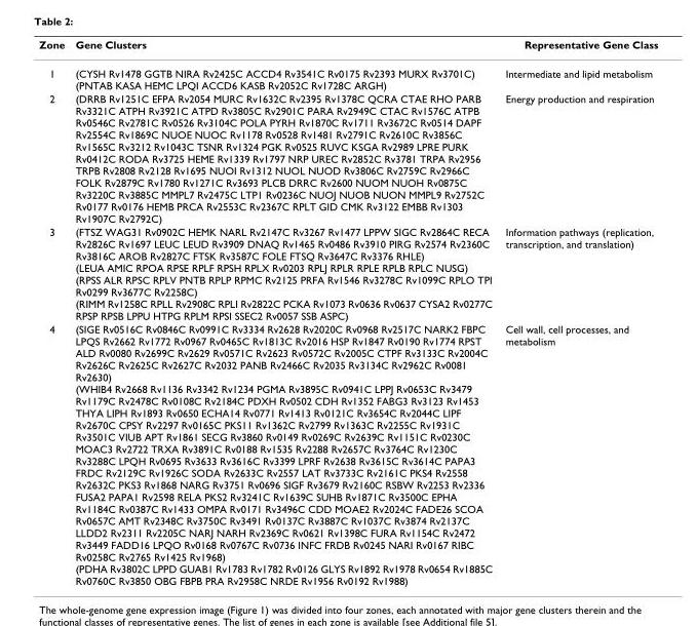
<table><thead><tr><td>Zone</td><td>Gene Clusters</td><td>Representative Gene Class</td></tr></thead><tbody><tr><td>1</td><td>(CYSH Rv1478 GGTB NIRA Rv2425C ACCD4 Rv3541C Rv0175 Rv2393 MURX Rv3701C) (PNTAB KASA HEMC LPQI ACCD6 KASB Rv2052C Rv1728C ARGH)</td><td>Intermediate and lipid metabolism</td></tr><tr><td>2</td><td>(DRRB Rv1251C EFPA Rv2054 MURC Rv1632C Rv2395 Rv1378C QCRA CTAE RHO PARB Rv3321C ATPH Rv3921C ATPD Rv3805C Rv2901C PARA Rv2949C CTAC Rv1576C ATPB Rv0546C Rv2781C Rv0526 Rv3104C POLA PYRH Rv1870C Rv1711 Rv3672C Rv0514 DAPF Rv2554C Rv1869C NUOE NUOC Rv1178 Rv0528 Rv1481 Rv2791C Rv2610C Rv3856C Rv1565C Rv3212 Rv1043C TSNR Rv1324 PGK Rv0525 RUVC KSGA Rv2989 LPRE PURK Rv0412C RODA Rv3725 HEME Rv1339 Rv1797 NRP UREC Rv2852C Rv3781 TRPA Rv2956 TRPB Rv2808 Rv2128 Rv1695 NUOI Rv1312 NUOL NUOD Rv3806C Rv2759C Rv2966C FOLK Rv2879C Rv1780 Rv1271C Rv3693 PLCB DRRC Rv2600 NUOM NUOH Rv0875C Rv3220C Rv3885C MMPL7 Rv2475C LTP1 Rv0236C NUOJ NUOB NUON MMPL9 Rv2752C Rv0177 Rv0176 HEMB PRCA Rv2553C Rv2367C RPLT GID CMK Rv3122 EMBB Rv1303 Rv1907C Rv2792C)</td><td>Energy production and respiration</td></tr><tr><td>3</td><td>(FTSZ WAG31 Rv0902C HEMK NARL Rv2147C Rv3267 Rv1477 LPPW SIGC Rv2864C RECA Rv2826C Rv1697 LEUC LEUD Rv3909 DNAQ Rv1465 Rv0486 Rv3910 PIRG Rv2574 Rv2360C Rv3816C AROB Rv2827C FTSK Rv3587C FOLE FTSQ Rv3647C Rv3376 RHLE) (LEUA AMIC RPOA RPSE RPLF RPSH RPLX Rv0203 RPLJ RPLR RPLE RPLB RPLC NUSG) (RPSS ALR RPSC RPLV PNTB RPLP RPMC Rv2125 PRFA Rv1546 Rv3278C Rv1099C RPLO TPI Rv0299 Rv3677C Rv2258C) (RIMM Rv1258C RPLL Rv2908C RPLI Rv2822C PCKA Rv1073 Rv0636 Rv0637 CYSA2 Rv0277C RPSP RPSB LPPU HTPG RPLM RPSI SSEC2 Rv0057 SSB ASPC)</td><td>Information pathways (replication, transcription, and translation)</td></tr><tr><td>4</td><td>(SIGE Rv0516C Rv0846C Rv0991C Rv3334 Rv2628 Rv2020C Rv0968 Rv2517C NARK2 FBPC LPQS Rv2662 Rv1772 Rv0967 Rv0465C Rv1813C Rv2016 HSP Rv1847 Rv0190 Rv1774 RPST ALD Rv0080 Rv2699C Rv2629 Rv0571C Rv2623 Rv0572C Rv2005C CTPF Rv3133C Rv2004C Rv2626C Rv2625C Rv2627C Rv2032 PANB Rv2466C Rv2035 Rv3134C Rv2962C Rv0081 Rv2630) (WHIB4 Rv2668 Rv1136 Rv3342 Rv1234 PGMA Rv3895C Rv0941C LPPJ Rv0653C Rv3479 Rv1179C Rv2478C Rv0108C Rv2184C PDXH Rv0502 CDH Rv1352 FABG3 Rv3123 Rv1453 THYA LIPH Rv1893 Rv0650 ECHA14 Rv0771 Rv1413 Rv0121C Rv3654C Rv2044C LIPF Rv2670C CPSY Rv2297 Rv0165C PKS11 Rv1362C Rv2799 Rv1363C Rv2255C Rv1931C Rv3501C VIUB APT Rv1861 SECG Rv3860 Rv0149 Rv0269C Rv2639C Rv1151C Rv0230C MOAC3 Rv2722 TRXA Rv3891C Rv0188 Rv1535 Rv2288 Rv2657C Rv3764C Rv1230C Rv3288C LPQH Rv0695 Rv3633 Rv3616C Rv3399 LPRF Rv2638 Rv3615C Rv3614C PAPA3 FRDC Rv2129C Rv1926C SODA Rv2633C Rv2557 LAT Rv3733C Rv2161C PKS4 Rv2558 Rv2632C PKS3 Rv1868 NARG Rv3751 Rv0696 SIGF Rv3679 Rv2160C RSBW Rv2253 Rv2336 FUSA2 PAPA1 Rv2598 RELA PKS2 Rv3241C Rv1639C SUHB Rv1871C Rv3500C EPHA Rv1184C Rv0387C Rv1433 OMPA Rv0171 Rv3496C CDD MOAE2 Rv2024C FADE26 SCOA Rv0657C AMT Rv2348C Rv3750C Rv3491 Rv0137C Rv3887C Rv1037C Rv3874 Rv2137C LLDD2 Rv2311 Rv2205C NARJ NARH Rv2369C Rv0621 Rv1398C FURA Rv1154C Rv2472 Rv3449 FADD16 LPQO Rv0168 Rv0767C Rv0736 INFC FRDB Rv0245 NARI Rv0167 RIBC Rv0258C Rv2765 Rv1425 Rv1968) (PDHA Rv3802C LPPD GUAB1 Rv1783 Rv1782 Rv0126 GLYS Rv1892 Rv1978 Rv0654 Rv1885C Rv0760C Rv3850 OBG FBPB PRA Rv2958C NRDE Rv1956 Rv0192 Rv1988)</td><td>Cell wall, cell processes, and metabolism</td></tr></tbody></table>